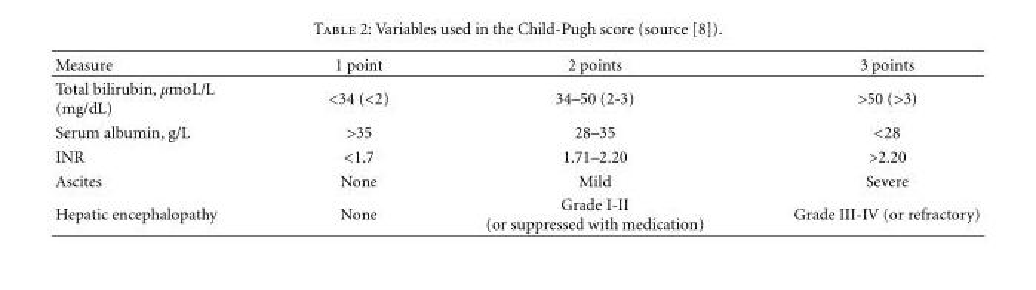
<table><thead><tr><td>Measure</td><td>1 point</td><td>2 points</td><td>3 points</td></tr></thead><tbody><tr><td>Total bilirubin, μmoL/L (mg/dL)</td><td>&lt;34 (&lt;2)</td><td>34–50 (2-3)</td><td>&gt;50 (&gt;3)</td></tr><tr><td>Serum albumin, g/L</td><td>&gt;35</td><td>28–35</td><td>&lt;28</td></tr><tr><td>INR</td><td>&lt;1.7</td><td>1.71–2.20</td><td>&gt;2.20</td></tr><tr><td>Ascites</td><td>None</td><td>Mild</td><td>Severe</td></tr><tr><td>Hepatic encephalopathy</td><td>None</td><td>Grade I-II (or suppressed with medication)</td><td>Grade III-IV (or refractory)</td></tr></tbody></table>